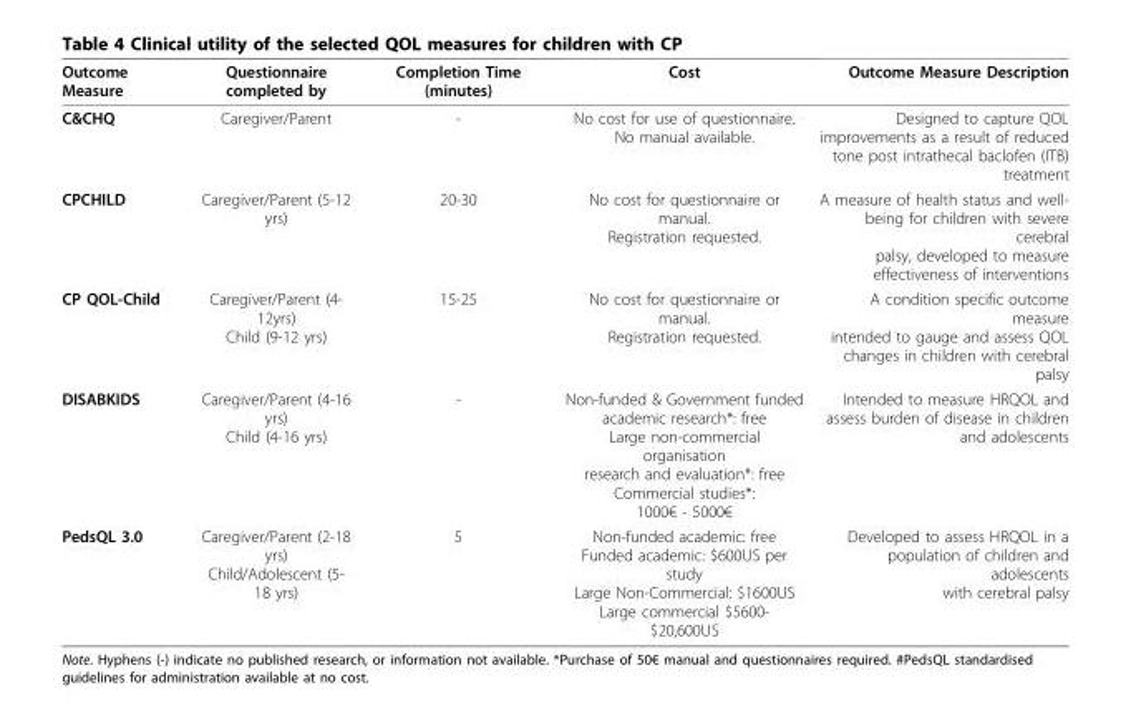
<table><thead><tr><td>Outcome Measure</td><td>Questionnaire completed by</td><td>Completion Time (minutes)</td><td>Cost</td><td>Outcome Measure Description</td></tr></thead><tbody><tr><td>C&amp;CHQ</td><td>Caregiver/Parent</td><td>-</td><td>No cost for use of questionnaire. No manual available.</td><td>Designed to capture QOL improvements as a result of reduced tone post intrathecal baclofen (ITB) treatment</td></tr><tr><td>CPCHILD</td><td>Caregiver/Parent (5-12 yrs)</td><td>20-30</td><td>No cost for questionnaire or manual. Registration requested.</td><td>A measure of health status and well- being for children with severe cerebral palsy, developed to measure effectiveness of interventions</td></tr><tr><td>CP QOL-Child</td><td>Caregiver/Parent (4- 12yrs) Child (9-12 yrs)</td><td>15-25</td><td>No cost for questionnaire or manual. Registration requested.</td><td>A condition specific outcome measure intended to gauge and assess QOL changes in children with cerebral palsy</td></tr><tr><td>DISABKIDS</td><td>Caregiver/Parent (4-16 yrs) Child (4-16 yrs)</td><td>-</td><td>Non-funded &amp; Government funded academic research*: free Large non-commercial organisation research and evaluation*: free Commercial studies*: 1000€ - 5000€</td><td>Intended to measure HRQOL and assess burden of disease in children and adolescents</td></tr><tr><td>PedsQL 3.0</td><td>Caregiver/Parent (2-18 yrs) Child/Adolescent (5- 18 yrs)</td><td>5</td><td>Non-funded academic: free Funded academic: $600US per study Large Non-Commercial: $1600US Large commercial $5600- $20,600US</td><td>Developed to assess HRQOL in a population of children and adolescents with cerebral palsy</td></tr></tbody></table>